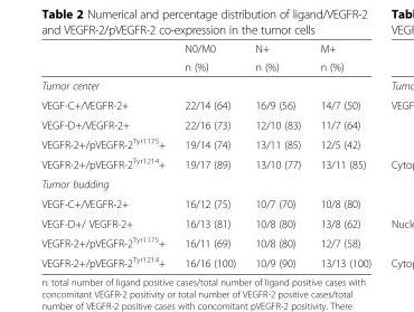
<table><thead><tr><td rowspan="2"></td><td rowspan="2">N0/M0 n (%)</td><td rowspan="2">N+ n (%)</td><td rowspan="2">M+ n (%)</td></tr><tr></tr></thead><tbody><tr><td colspan="4">Tumor center</td></tr><tr><td>VEGF-C+/VEGFR-2+</td><td>22/14 (64)</td><td>16/9 (56)</td><td>14/7 (50)</td></tr><tr><td>VEGF-D+/VEGFR-2+</td><td>22/16 (73)</td><td>12/10 (83)</td><td>11/7 (64)</td></tr><tr><td>VEGFR-2+/pVEGFR-2<sup>Tyr1175</sup>+</td><td>19/14 (74)</td><td>13/11 (85)</td><td>12/5 (42)</td></tr><tr><td>VEGFR-2+/pVEGFR-2<sup>Tyr1214</sup>+</td><td>19/17 (89)</td><td>13/10 (77)</td><td>13/11 (85)</td></tr><tr><td colspan="4">Tumor budding</td></tr><tr><td>VEGF-C+/VEGFR-2+</td><td>16/12 (75)</td><td>10/7 (70)</td><td>10/8 (80)</td></tr><tr><td>VEGF-D+/ VEGFR-2+</td><td>16/13 (81)</td><td>10/8 (80)</td><td>13/8 (62)</td></tr><tr><td>VEGFR-2+/pVEGFR-2<sup>Tyr1175</sup>+</td><td>16/11 (69)</td><td>10/8 (80)</td><td>12/7 (58)</td></tr><tr><td>VEGFR-2+/pVEGFR-2<sup>Tyr1214</sup>+</td><td>16/16 (100)</td><td>10/9 (90)</td><td>13/13 (100)</td></tr></tbody></table>